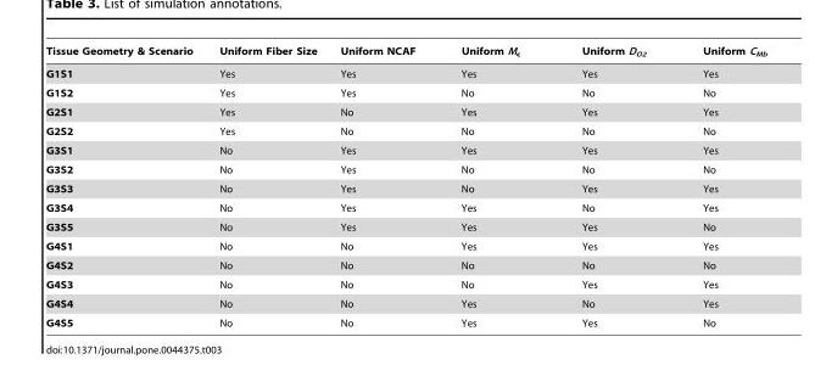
<table><thead><tr><td>Tissue Geometry &amp; Scenario</td><td>Uniform Fiber Size</td><td>Uniform NCAF</td><td>Uniform M<sub>c</sub></td><td>Uniform D<sub>O2</sub></td><td>Uniform C<sub>Mb</sub></td></tr></thead><tbody><tr><td>G1S1</td><td>Yes</td><td>Yes</td><td>Yes</td><td>Yes</td><td>Yes</td></tr><tr><td>G1S2</td><td>Yes</td><td>Yes</td><td>No</td><td>No</td><td>No</td></tr><tr><td>G2S1</td><td>Yes</td><td>No</td><td>Yes</td><td>Yes</td><td>Yes</td></tr><tr><td>G2S2</td><td>Yes</td><td>No</td><td>No</td><td>No</td><td>No</td></tr><tr><td>G3S1</td><td>No</td><td>Yes</td><td>Yes</td><td>Yes</td><td>Yes</td></tr><tr><td>G3S2</td><td>No</td><td>Yes</td><td>No</td><td>No</td><td>No</td></tr><tr><td>G3S3</td><td>No</td><td>Yes</td><td>No</td><td>Yes</td><td>Yes</td></tr><tr><td>G3S4</td><td>No</td><td>Yes</td><td>Yes</td><td>No</td><td>Yes</td></tr><tr><td>G3S5</td><td>No</td><td>Yes</td><td>Yes</td><td>Yes</td><td>No</td></tr><tr><td>G4S1</td><td>No</td><td>No</td><td>Yes</td><td>Yes</td><td>Yes</td></tr><tr><td>G4S2</td><td>No</td><td>No</td><td>No</td><td>No</td><td>No</td></tr><tr><td>G4S3</td><td>No</td><td>No</td><td>No</td><td>Yes</td><td>Yes</td></tr><tr><td>G4S4</td><td>No</td><td>No</td><td>Yes</td><td>No</td><td>Yes</td></tr><tr><td>G4S5</td><td>No</td><td>No</td><td>Yes</td><td>Yes</td><td>No</td></tr></tbody></table>